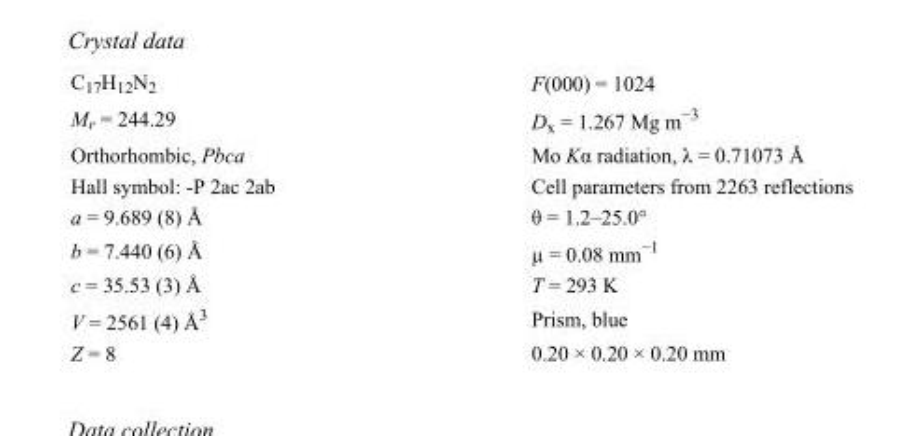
<table><tbody><tr><td>C<sub>17</sub>H<sub>12</sub>N<sub>2</sub></td><td>F(000) = 1024</td></tr><tr><td>M<sub>r</sub> = 244.29</td><td>D<sub>x</sub> = 1.267 Mg m<sup>−3</sup></td></tr><tr><td>Orthorhombic, Pbca</td><td>Mo Kα radiation, λ = 0.71073 Å</td></tr><tr><td>Hall symbol: -P 2ac 2ab</td><td>Cell parameters from 2263 reflections</td></tr><tr><td>a = 9.689 (8) Å</td><td>θ = 1.2–25.0°</td></tr><tr><td>b = 7.440 (6) Å</td><td>µ = 0.08 mm<sup>−1</sup></td></tr><tr><td>c = 35.53 (3) Å</td><td>T = 293 K</td></tr><tr><td>V = 2561 (4) Å<sup>3</sup></td><td>Prism, blue</td></tr><tr><td>Z = 8</td><td>0.20 × 0.20 × 0.20 mm</td></tr></tbody></table>